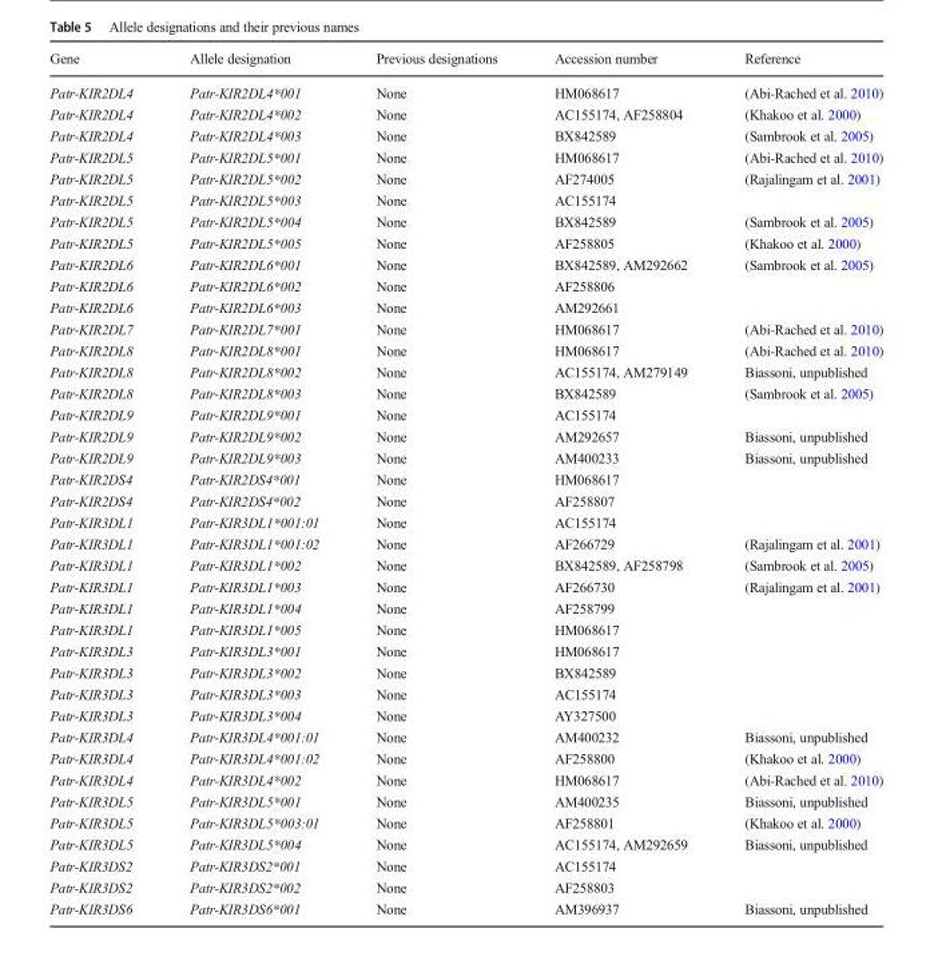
<table><thead><tr><td>Gene</td><td>Allele designation</td><td>Previous designations</td><td>Accession number</td><td>Reference</td></tr></thead><tbody><tr><td>Patr-KIR2DL4</td><td>Patr-KIR2DL4*001</td><td>None</td><td>HM068617</td><td>(Abi-Rached et al. 2010)</td></tr><tr><td>Patr-KIR2DL4</td><td>Patr-KIR2DL4*002</td><td>None</td><td>AC155174, AF258804</td><td>(Khakoo et al. 2000)</td></tr><tr><td>Patr-KIR2DL4</td><td>Patr-KIR2DL4*003</td><td>None</td><td>BX842589</td><td>(Sambrook et al. 2005)</td></tr><tr><td>Patr-KIR2DL5</td><td>Patr-KIR2DL5*001</td><td>None</td><td>HM068617</td><td>(Abi-Rached et al. 2010)</td></tr><tr><td>Patr-KIR2DL5</td><td>Patr-KIR2DL5*002</td><td>None</td><td>AF274005</td><td>(Rajalingam et al. 2001)</td></tr><tr><td>Patr-KIR2DL5</td><td>Patr-KIR2DL5*003</td><td>None</td><td>AC155174</td><td></td></tr><tr><td>Patr-KIR2DL5</td><td>Patr-KIR2DL5*004</td><td>None</td><td>BX842589</td><td>(Sambrook et al. 2005)</td></tr><tr><td>Patr-KIR2DL5</td><td>Patr-KIR2DL5*005</td><td>None</td><td>AF258805</td><td>(Khakoo et al. 2000)</td></tr><tr><td>Patr-KIR2DL6</td><td>Patr-KIR2DL6*001</td><td>None</td><td>BX842589, AM292662</td><td>(Sambrook et al. 2005)</td></tr><tr><td>Patr-KIR2DL6</td><td>Patr-KIR2DL6*002</td><td>None</td><td>AF258806</td><td></td></tr><tr><td>Patr-KIR2DL6</td><td>Patr-KIR2DL6*003</td><td>None</td><td>AM292661</td><td></td></tr><tr><td>Patr-KIR2DL7</td><td>Patr-KIR2DL7*001</td><td>None</td><td>HM068617</td><td>(Abi-Rached et al. 2010)</td></tr><tr><td>Patr-KIR2DL8</td><td>Patr-KIR2DL8*001</td><td>None</td><td>HM068617</td><td>(Abi-Rached et al. 2010)</td></tr><tr><td>Patr-KIR2DL8</td><td>Patr-KIR2DL8*002</td><td>None</td><td>AC155174, AM279149</td><td>Biassoni, unpublished</td></tr><tr><td>Patr-KIR2DL8</td><td>Patr-KIR2DL8*003</td><td>None</td><td>BX842589</td><td>(Sambrook et al. 2005)</td></tr><tr><td>Patr-KIR2DL9</td><td>Patr-KIR2DL9*001</td><td>None</td><td>AC155174</td><td></td></tr><tr><td>Patr-KIR2DL9</td><td>Patr-KIR2DL9*002</td><td>None</td><td>AM292657</td><td>Biassoni, unpublished</td></tr><tr><td>Patr-KIR2DL9</td><td>Patr-KIR2DL9*003</td><td>None</td><td>AM400233</td><td>Biassoni, unpublished</td></tr><tr><td>Patr-KIR2DS4</td><td>Patr-KIR2DS4*001</td><td>None</td><td>HM068617</td><td></td></tr><tr><td>Patr-KIR2DS4</td><td>Patr-KIR2DS4*002</td><td>None</td><td>AF258807</td><td></td></tr><tr><td>Patr-KIR3DL1</td><td>Patr-KIR3DL1*001:01</td><td>None</td><td>AC155174</td><td></td></tr><tr><td>Patr-KIR3DL1</td><td>Patr-KIR3DL1*001:02</td><td>None</td><td>AF266729</td><td>(Rajalingam et al. 2001)</td></tr><tr><td>Patr-KIR3DL1</td><td>Patr-KIR3DL1*002</td><td>None</td><td>BX842589, AF258798</td><td>(Sambrook et al. 2005)</td></tr><tr><td>Patr-KIR3DL1</td><td>Patr-KIR3DL1*003</td><td>None</td><td>AF266730</td><td>(Rajalingam et al. 2001)</td></tr><tr><td>Patr-KIR3DL1</td><td>Patr-KIR3DL1*004</td><td>None</td><td>AF258799</td><td></td></tr><tr><td>Patr-KIR3DL1</td><td>Patr-KIR3DL1*005</td><td>None</td><td>HM068617</td><td></td></tr><tr><td>Patr-KIR3DL3</td><td>Patr-KIR3DL3*001</td><td>None</td><td>HM068617</td><td></td></tr><tr><td>Patr-KIR3DL3</td><td>Patr-KIR3DL3*002</td><td>None</td><td>BX842589</td><td></td></tr><tr><td>Patr-KIR3DL3</td><td>Patr-KIR3DL3*003</td><td>None</td><td>AC155174</td><td></td></tr><tr><td>Patr-KIR3DL3</td><td>Patr-KIR3DL3*004</td><td>None</td><td>AY327500</td><td></td></tr><tr><td>Patr-KIR3DL4</td><td>Patr-KIR3DL4*001:01</td><td>None</td><td>AM400232</td><td>Biassoni, unpublished</td></tr><tr><td>Patr-KIR3DL4</td><td>Patr-KIR3DL4*001:02</td><td>None</td><td>AF258800</td><td>(Khakoo et al. 2000)</td></tr><tr><td>Patr-KIR3DL4</td><td>Patr-KIR3DL4*002</td><td>None</td><td>HM068617</td><td>(Abi-Rached et al. 2010)</td></tr><tr><td>Patr-KIR3DL5</td><td>Patr-KIR3DL5*001</td><td>None</td><td>AM400235</td><td>Biassoni, unpublished</td></tr><tr><td>Patr-KIR3DL5</td><td>Patr-KIR3DL5*003:01</td><td>None</td><td>AF258801</td><td>(Khakoo et al. 2000)</td></tr><tr><td>Patr-KIR3DL5</td><td>Patr-KIR3DL5*004</td><td>None</td><td>AC155174, AM292659</td><td>Biassoni, unpublished</td></tr><tr><td>Patr-KIR3DS2</td><td>Patr-KIR3DS2*001</td><td>None</td><td>AC155174</td><td></td></tr><tr><td>Patr-KIR3DS2</td><td>Patr-KIR3DS2*002</td><td>None</td><td>AF258803</td><td></td></tr><tr><td>Patr-KIR3DS6</td><td>Patr-KIR3DS6*001</td><td>None</td><td>AM396937</td><td>Biassoni, unpublished</td></tr></tbody></table>